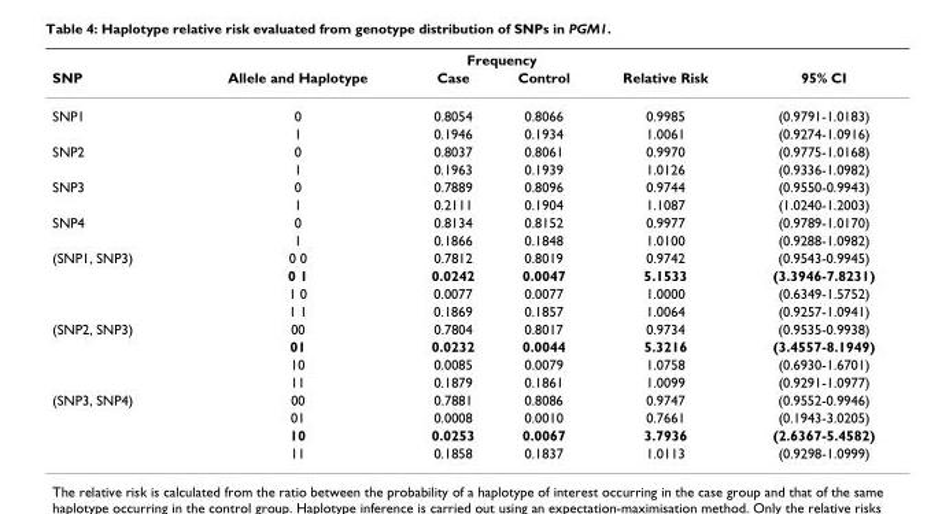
<table><thead><tr><td rowspan="2">SNP</td><td rowspan="2">Allele and Haplotype</td><td colspan="2">Frequency</td><td rowspan="2">Relative Risk</td><td rowspan="2">95% CI</td></tr><tr><td>Case</td><td>Control</td></tr></thead><tbody><tr><td rowspan="2">SNP1</td><td>0</td><td>0.8054</td><td>0.8066</td><td>0.9985</td><td>(0.9791-1.0183)</td></tr><tr><td>1</td><td>0.1946</td><td>0.1934</td><td>1.0061</td><td>(0.9274-1.0916)</td></tr><tr><td rowspan="2">SNP2</td><td>0</td><td>0.8037</td><td>0.8061</td><td>0.9970</td><td>(0.9775-1.0168)</td></tr><tr><td>1</td><td>0.1963</td><td>0.1939</td><td>1.0126</td><td>(0.9336-1.0982)</td></tr><tr><td rowspan="2">SNP3</td><td>0</td><td>0.7889</td><td>0.8096</td><td>0.9744</td><td>(0.9550-0.9943)</td></tr><tr><td>1</td><td>0.2111</td><td>0.1904</td><td>1.1087</td><td>(1.0240-1.2003)</td></tr><tr><td rowspan="2">SNP4</td><td>0</td><td>0.8134</td><td>0.8152</td><td>0.9977</td><td>(0.9789-1.0170)</td></tr><tr><td>1</td><td>0.1866</td><td>0.1848</td><td>1.0100</td><td>(0.9288-1.0982)</td></tr><tr><td rowspan="4">(SNP1, SNP3)</td><td>0 0</td><td>0.7812</td><td>0.8019</td><td>0.9742</td><td>(0.9543-0.9945)</td></tr><tr><td>0 1</td><td>0.0242</td><td>0.0047</td><td>5.1533</td><td>(3.3946-7.8231)</td></tr><tr><td>1 0</td><td>0.0077</td><td>0.0077</td><td>1.0000</td><td>(0.6349-1.5752)</td></tr><tr><td>1 1</td><td>0.1869</td><td>0.1857</td><td>1.0064</td><td>(0.9257-1.0941)</td></tr><tr><td rowspan="4">(SNP2, SNP3)</td><td>00</td><td>0.7804</td><td>0.8017</td><td>0.9734</td><td>(0.9535-0.9938)</td></tr><tr><td>01</td><td>0.0232</td><td>0.0044</td><td>5.3216</td><td>(3.4557-8.1949)</td></tr><tr><td>10</td><td>0.0085</td><td>0.0079</td><td>1.0758</td><td>(0.6930-1.6701)</td></tr><tr><td>11</td><td>0.1879</td><td>0.1861</td><td>1.0099</td><td>(0.9291-1.0977)</td></tr><tr><td rowspan="4">(SNP3, SNP4)</td><td>00</td><td>0.7881</td><td>0.8086</td><td>0.9747</td><td>(0.9552-0.9946)</td></tr><tr><td>01</td><td>0.0008</td><td>0.0010</td><td>0.7661</td><td>(0.1943-3.0205)</td></tr><tr><td>10</td><td>0.0253</td><td>0.0067</td><td>3.7936</td><td>(2.6367-5.4582)</td></tr><tr><td>11</td><td>0.1858</td><td>0.1837</td><td>1.0113</td><td>(0.9298-1.0999)</td></tr></tbody></table>